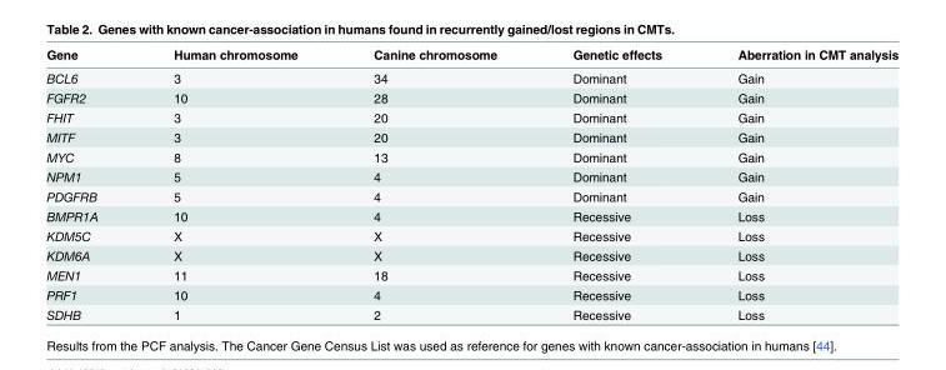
<table><thead><tr><td>Gene</td><td>Human chromosome</td><td>Canine chromosome</td><td>Genetic effects</td><td>Aberration in CMT analysis</td></tr></thead><tbody><tr><td>BCL6</td><td>3</td><td>34</td><td>Dominant</td><td>Gain</td></tr><tr><td>FGFR2</td><td>10</td><td>28</td><td>Dominant</td><td>Gain</td></tr><tr><td>FHIT</td><td>3</td><td>20</td><td>Dominant</td><td>Gain</td></tr><tr><td>MITF</td><td>3</td><td>20</td><td>Dominant</td><td>Gain</td></tr><tr><td>MYC</td><td>8</td><td>13</td><td>Dominant</td><td>Gain</td></tr><tr><td>NPM1</td><td>5</td><td>4</td><td>Dominant</td><td>Gain</td></tr><tr><td>PDGFRB</td><td>5</td><td>4</td><td>Dominant</td><td>Gain</td></tr><tr><td>BMPR1A</td><td>10</td><td>4</td><td>Recessive</td><td>Loss</td></tr><tr><td>KDM5C</td><td>X</td><td>X</td><td>Recessive</td><td>Loss</td></tr><tr><td>KDM6A</td><td>X</td><td>X</td><td>Recessive</td><td>Loss</td></tr><tr><td>MEN1</td><td>11</td><td>18</td><td>Recessive</td><td>Loss</td></tr><tr><td>PRF1</td><td>10</td><td>4</td><td>Recessive</td><td>Loss</td></tr><tr><td>SDHB</td><td>1</td><td>2</td><td>Recessive</td><td>Loss</td></tr></tbody></table>